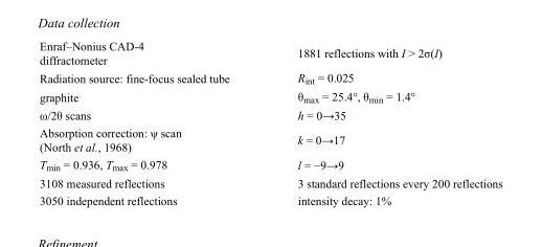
<table><tbody><tr><td>Enraf–Nonius CAD-4 diffractometer</td><td>1881 reflections with I &gt; 2σ(I)</td></tr><tr><td>Radiation source: fine-focus sealed tube</td><td>R<sub>int</sub> = 0.025</td></tr><tr><td>graphite</td><td>θ<sub>max</sub> = 25.4°, θ<sub>min</sub> = 1.4°</td></tr><tr><td>ω/2θ scans</td><td>h = 0→35</td></tr><tr><td>Absorption correction: ψ scan (North et al., 1968)</td><td>k = 0→17</td></tr><tr><td>T<sub>min</sub> = 0.936, T<sub>max</sub> = 0.978</td><td>l = −9→9</td></tr><tr><td>3108 measured reflections</td><td>3 standard reflections every 200 reflections</td></tr><tr><td>3050 independent reflections</td><td>intensity decay: 1%</td></tr></tbody></table>